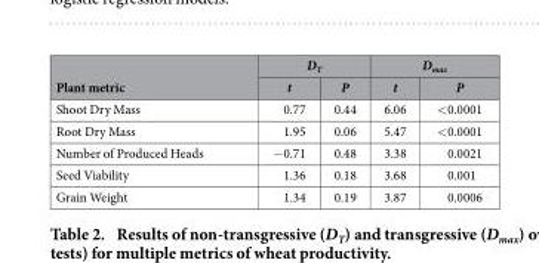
<table><thead><tr><td rowspan="2">Plant metric</td><td colspan="2">D<sub>T</sub></td><td colspan="2">D<sub>max</sub></td></tr><tr><td>t</td><td>P</td><td>t</td><td>P</td></tr></thead><tbody><tr><td>Shoot Dry Mass</td><td>0.77</td><td>0.44</td><td>6.06</td><td>&lt; 0.0001</td></tr><tr><td>Root Dry Mass</td><td>1.95</td><td>0.06</td><td>5.47</td><td>&lt; 0.0001</td></tr><tr><td>Number of Produced Heads</td><td>− 0.71</td><td>0.48</td><td>3.38</td><td>0.0021</td></tr><tr><td>Seed Viability</td><td>1.36</td><td>0.18</td><td>3.68</td><td>0.001</td></tr><tr><td>Grain Weight</td><td>1.34</td><td>0.19</td><td>3.87</td><td>0.0006</td></tr></tbody></table>